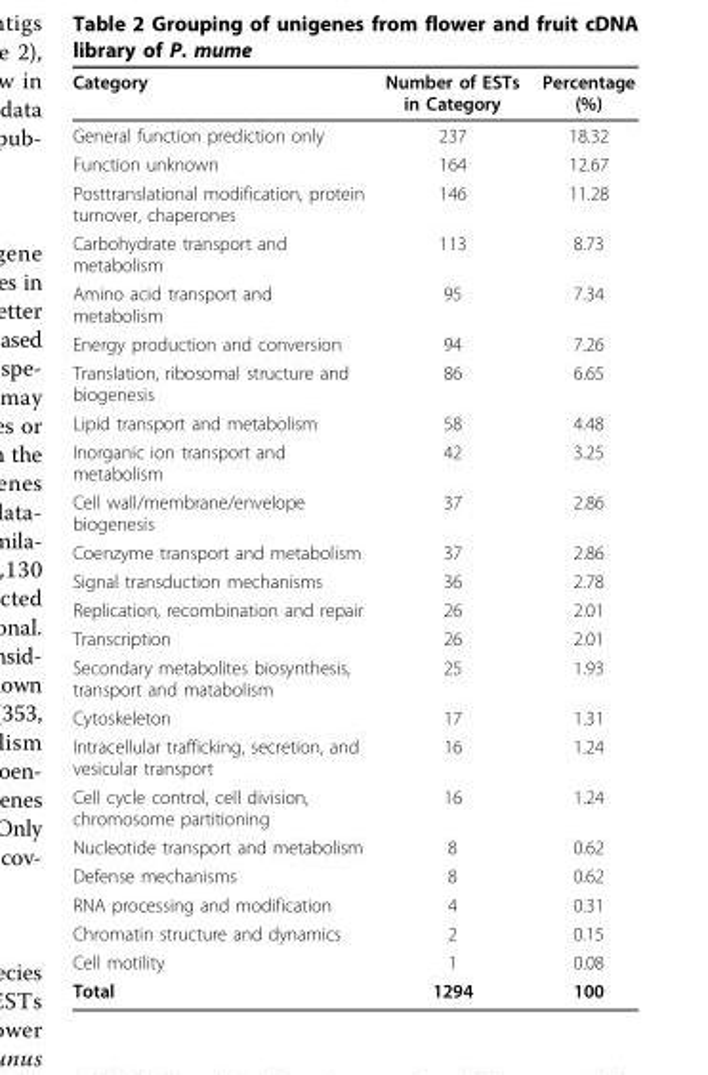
<table><thead><tr><td>Category</td><td>Number of ESTs in Category</td><td>Percentage (%)</td></tr></thead><tbody><tr><td>General function prediction only</td><td>237</td><td>18.32</td></tr><tr><td>Function unknown</td><td>164</td><td>12.67</td></tr><tr><td>Posttranslational modification, protein turnover, chaperones</td><td>146</td><td>11.28</td></tr><tr><td>Carbohydrate transport and metabolism</td><td>113</td><td>8.73</td></tr><tr><td>Amino acid transport and metabolism</td><td>95</td><td>7.34</td></tr><tr><td>Energy production and conversion</td><td>94</td><td>7.26</td></tr><tr><td>Translation, ribosomal structure and biogenesis</td><td>86</td><td>6.65</td></tr><tr><td>Lipid transport and metabolism</td><td>58</td><td>4.48</td></tr><tr><td>Inorganic ion transport and metabolism</td><td>42</td><td>3.25</td></tr><tr><td>Cell wall/membrane/envelope biogenesis</td><td>37</td><td>2.86</td></tr><tr><td>Coenzyme transport and metabolism</td><td>37</td><td>2.86</td></tr><tr><td>Signal transduction mechanisms</td><td>36</td><td>2.78</td></tr><tr><td>Replication, recombination and repair</td><td>26</td><td>2.01</td></tr><tr><td>Transcription</td><td>26</td><td>2.01</td></tr><tr><td>Secondary metabolites biosynthesis, transport and matabolism</td><td>25</td><td>1.93</td></tr><tr><td>Cytoskeleton</td><td>17</td><td>1.31</td></tr><tr><td>Intracellular trafficking, secretion, and vesicular transport</td><td>16</td><td>1.24</td></tr><tr><td>Cell cycle control, cell division, chromosome partitioning</td><td>16</td><td>1.24</td></tr><tr><td>Nucleotide transport and metabolism</td><td>8</td><td>0.62</td></tr><tr><td>Defense mechanisms</td><td>8</td><td>0.62</td></tr><tr><td>RNA processing and modification</td><td>4</td><td>0.31</td></tr><tr><td>Chromatin structure and dynamics</td><td>2</td><td>0.15</td></tr><tr><td>Cell motility</td><td>1</td><td>0.08</td></tr><tr><td>Total</td><td>1294</td><td>100</td></tr></tbody></table>